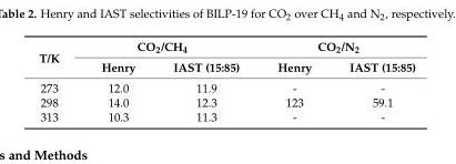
<table><thead><tr><td rowspan="2">T/K</td><td colspan="2">CO2/CH4</td><td colspan="2">CO2/N2</td></tr><tr><td>Henry</td><td>IAST (15:85)</td><td>Henry</td><td>IAST (15:85)</td></tr></thead><tbody><tr><td>273</td><td>12.0</td><td>11.9</td><td>-</td><td>-</td></tr><tr><td>298</td><td>14.0</td><td>12.3</td><td>123</td><td>59.1</td></tr><tr><td>313</td><td>10.3</td><td>11.3</td><td>-</td><td>-</td></tr></tbody></table>